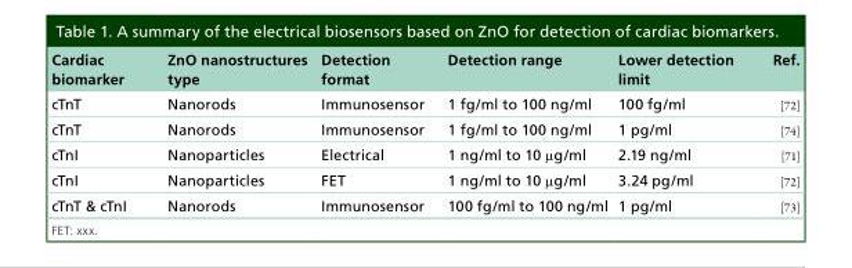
<table><thead><tr><td>Cardiac biomarker</td><td>ZnO nanostructures type</td><td>Detection format</td><td>Detection range</td><td>Lower detection limit</td><td>Ref.</td></tr></thead><tbody><tr><td>cTnT</td><td>Nanorods</td><td>Immunosensor</td><td>1 fg/ml to 100 ng/ml</td><td>100 fg/ml</td><td>[72]</td></tr><tr><td>cTnT</td><td>Nanorods</td><td>Immunosensor</td><td>1 fg/ml to 100 ng/ml</td><td>1 pg/ml</td><td>[74]</td></tr><tr><td>cTnI</td><td>Nanoparticles</td><td>Electrical</td><td>1 ng/ml to 10 μg/ml</td><td>2.19 ng/ml</td><td>[71]</td></tr><tr><td>cTnI</td><td>Nanoparticles</td><td>FET</td><td>1 ng/ml to 10 μg/ml</td><td>3.24 pg/ml</td><td>[72]</td></tr><tr><td>cTnT &amp; cTnI</td><td>Nanorods</td><td>Immunosensor</td><td>100 fg/ml to 100 ng/ml</td><td>1 pg/ml</td><td>[73]</td></tr></tbody></table>